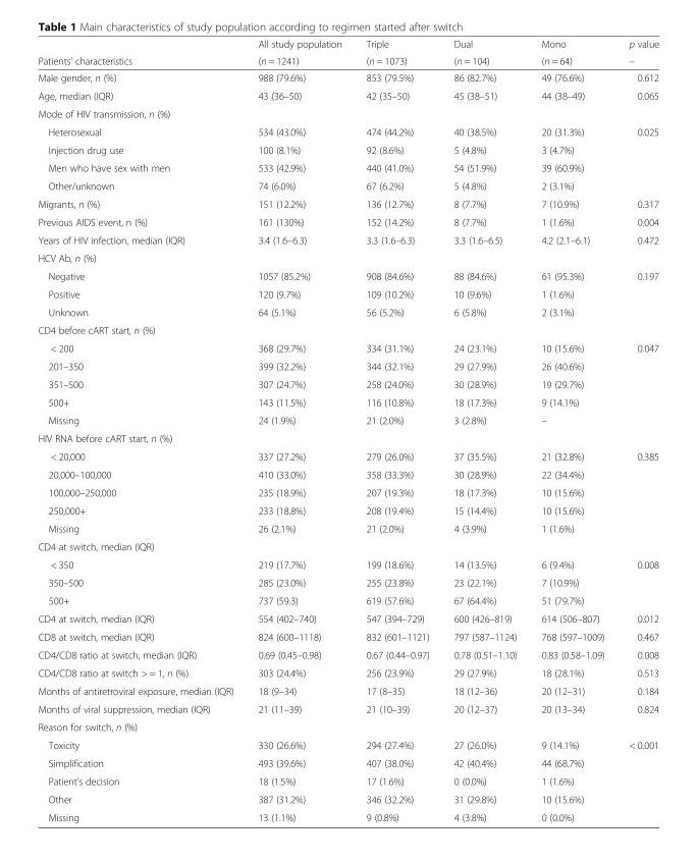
<table><thead><tr><td rowspan="2">Patients’ characteristics</td><td rowspan="2">All study population (n = 1241)</td><td rowspan="2">Triple (n = 1073)</td><td rowspan="2">Dual (n = 104)</td><td rowspan="2">Mono (n = 64)</td><td rowspan="2">p value –</td></tr><tr></tr></thead><tbody><tr><td>Male gender, n (%)</td><td>988 (79.6%)</td><td>853 (79.5%)</td><td>86 (82.7%)</td><td>49 (76.6%)</td><td>0.612</td></tr><tr><td>Age, median (IQR)</td><td>43 (36–50)</td><td>42 (35–50)</td><td>45 (38–51)</td><td>44 (38–49)</td><td>0.065</td></tr><tr><td colspan="6">Mode of HIV transmission, n (%)</td></tr><tr><td>Heterosexual</td><td>534 (43.0%)</td><td>474 (44.2%)</td><td>40 (38.5%)</td><td>20 (31.3%)</td><td rowspan="4">0.025</td></tr><tr><td>Injection drug use</td><td>100 (8.1%)</td><td>92 (8.6%)</td><td>5 (4.8%)</td><td>3 (4.7%)</td></tr><tr><td>Men who have sex with men</td><td>533 (42.9%)</td><td>440 (41.0%)</td><td>54 (51.9%)</td><td>39 (60.9%)</td></tr><tr><td>Other/unknown</td><td>74 (6.0%)</td><td>67 (6.2%)</td><td>5 (4.8%)</td><td>2 (3.1%)</td></tr><tr><td>Migrants, n (%)</td><td>151 (12.2%)</td><td>136 (12.7%)</td><td>8 (7.7%)</td><td>7 (10.9%)</td><td>0.317</td></tr><tr><td>Previous AIDS event, n (%)</td><td>161 (130%)</td><td>152 (14.2%)</td><td>8 (7.7%)</td><td>1 (1.6%)</td><td>0.004</td></tr><tr><td>Years of HIV infection, median (IQR)</td><td>3.4 (1.6–6.3)</td><td>3.3 (1.6–6.3)</td><td>3.3 (1.6–6.5)</td><td>4.2 (2.1–6.1)</td><td>0.472</td></tr><tr><td colspan="6">HCV Ab, n (%)</td></tr><tr><td>Negative</td><td>1057 (85.2%)</td><td>908 (84.6%)</td><td>88 (84.6%)</td><td>61 (95.3%)</td><td rowspan="3">0.197</td></tr><tr><td>Positive</td><td>120 (9.7%)</td><td>109 (10.2%)</td><td>10 (9.6%)</td><td>1 (1.6%)</td></tr><tr><td>Unknown</td><td>64 (5.1%)</td><td>56 (5.2%)</td><td>6 (5.8%)</td><td>2 (3.1%)</td></tr><tr><td colspan="6">CD4 before cART start, n (%)</td></tr><tr><td>&lt; 200</td><td>368 (29.7%)</td><td>334 (31.1%)</td><td>24 (23.1%)</td><td>10 (15.6%)</td><td rowspan="5">0.047</td></tr><tr><td>201–350</td><td>399 (32.2%)</td><td>344 (32.1%)</td><td>29 (27.9%)</td><td>26 (40.6%)</td></tr><tr><td>351–500</td><td>307 (24.7%)</td><td>258 (24.0%)</td><td>30 (28.9%)</td><td>19 (29.7%)</td></tr><tr><td>500+</td><td>143 (11.5%)</td><td>116 (10.8%)</td><td>18 (17.3%)</td><td>9 (14.1%)</td></tr><tr><td>Missing</td><td>24 (1.9%)</td><td>21 (2.0%)</td><td>3 (2.8%)</td><td>–</td></tr><tr><td colspan="6">HIV RNA before cART start, n (%)</td></tr><tr><td>&lt; 20,000</td><td>337 (27.2%)</td><td>279 (26.0%)</td><td>37 (35.5%)</td><td>21 (32.8%)</td><td rowspan="5">0.385</td></tr><tr><td>20,000–100,000</td><td>410 (33.0%)</td><td>358 (33.3%)</td><td>30 (28.9%)</td><td>22 (34.4%)</td></tr><tr><td>100,000–250,000</td><td>235 (18.9%)</td><td>207 (19.3%)</td><td>18 (17.3%)</td><td>10 (15.6%)</td></tr><tr><td>250,000+</td><td>233 (18.8%)</td><td>208 (19.4%)</td><td>15 (14.4%)</td><td>10 (15.6%)</td></tr><tr><td>Missing</td><td>26 (2.1%)</td><td>21 (2.0%)</td><td>4 (3.9%)</td><td>1 (1.6%)</td></tr><tr><td colspan="6">CD4 at switch, median (IQR)</td></tr><tr><td>&lt; 350</td><td>219 (17.7%)</td><td>199 (18.6%)</td><td>14 (13.5%)</td><td>6 (9.4%)</td><td rowspan="3">0.008</td></tr><tr><td>350–500</td><td>285 (23.0%)</td><td>255 (23.8%)</td><td>23 (22.1%)</td><td>7 (10.9%)</td></tr><tr><td>500+</td><td>737 (59.3)</td><td>619 (57.6%)</td><td>67 (64.4%)</td><td>51 (79.7%)</td></tr><tr><td>CD4 at switch, median (IQR)</td><td>554 (402–740)</td><td>547 (394–729)</td><td>600 (426–819)</td><td>614 (506–807)</td><td>0.012</td></tr><tr><td>CD8 at switch, median (IQR)</td><td>824 (600–1118)</td><td>832 (601–1121)</td><td>797 (587–1124)</td><td>768 (597–1009)</td><td>0.467</td></tr><tr><td>CD4/CD8 ratio at switch, median (IQR)</td><td>0.69 (0.45–0.98)</td><td>0.67 (0.44–0.97)</td><td>0.78 (0.51–1.10)</td><td>0.83 (0.58–1.09)</td><td>0.008</td></tr><tr><td>CD4/CD8 ratio at switch &gt; = 1, n (%)</td><td>303 (24.4%)</td><td>256 (23.9%)</td><td>29 (27.9%)</td><td>18 (28.1%)</td><td>0.513</td></tr><tr><td>Months of antiretroviral exposure, median (IQR)</td><td>18 (9–34)</td><td>17 (8–35)</td><td>18 (12–36)</td><td>20 (12–31)</td><td>0.184</td></tr><tr><td>Months of viral suppression, median (IQR)</td><td>21 (11–39)</td><td>21 (10–39)</td><td>20 (12–37)</td><td>20 (13–34)</td><td>0.824</td></tr><tr><td colspan="6">Reason for switch, n (%)</td></tr><tr><td>Toxicity</td><td>330 (26.6%)</td><td>294 (27.4%)</td><td>27 (26.0%)</td><td>9 (14.1%)</td><td rowspan="5">&lt; 0.001</td></tr><tr><td>Simplification</td><td>493 (39.6%)</td><td>407 (38.0%)</td><td>42 (40.4%)</td><td>44 (68.7%)</td></tr><tr><td>Patient’s decision</td><td>18 (1.5%)</td><td>17 (1.6%)</td><td>0 (0.0%)</td><td>1 (1.6%)</td></tr><tr><td>Other</td><td>387 (31.2%)</td><td>346 (32.2%)</td><td>31 (29.8%)</td><td>10 (15.6%)</td></tr><tr><td>Missing</td><td>13 (1.1%)</td><td>9 (0.8%)</td><td>4 (3.8%)</td><td>0 (0.0%)</td></tr></tbody></table>